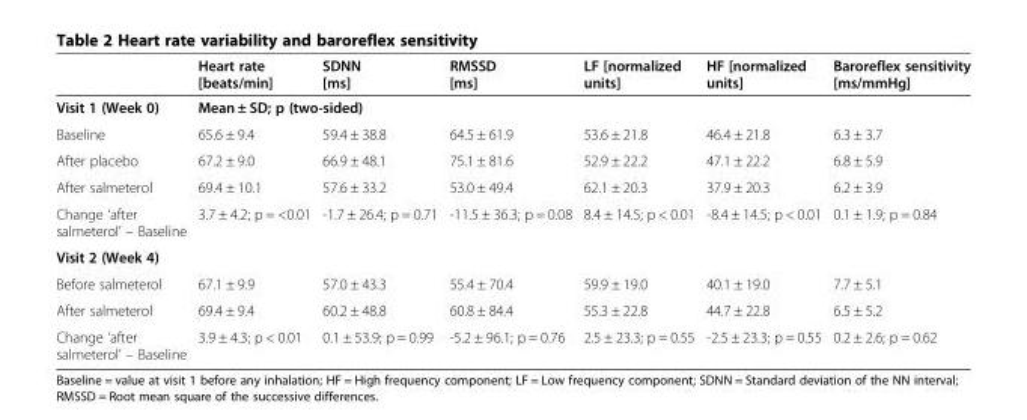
<table><thead><tr><td></td><td>Heart rate [beats/min]</td><td>SDNN [ms]</td><td>RMSSD [ms]</td><td>LF [normalized units]</td><td>HF [normalized units]</td><td>Baroreflex sensitivity [ms/mmHg]</td></tr></thead><tbody><tr><td>Visit 1 (Week 0)</td><td colspan="6">Mean ± SD; p (two-sided)</td></tr><tr><td>Baseline</td><td>65.6 ± 9.4</td><td>59.4 ± 38.8</td><td>64.5 ± 61.9</td><td>53.6 ± 21.8</td><td>46.4 ± 21.8</td><td>6.3 ± 3.7</td></tr><tr><td>After placebo</td><td>67.2 ± 9.0</td><td>66.9 ± 48.1</td><td>75.1 ± 81.6</td><td>52.9 ± 22.2</td><td>47.1 ± 22.2</td><td>6.8 ± 5.9</td></tr><tr><td>After salmeterol</td><td>69.4 ± 10.1</td><td>57.6 ± 33.2</td><td>53.0 ± 49.4</td><td>62.1 ± 20.3</td><td>37.9 ± 20.3</td><td>6.2 ± 3.9</td></tr><tr><td>Change ‘after salmeterol’ – Baseline</td><td>3.7 ± 4.2; p = &lt;0.01</td><td>-1.7 ± 26.4; p = 0.71</td><td>-11.5 ± 36.3; p = 0.08</td><td>8.4 ± 14.5; p &lt; 0.01</td><td>-8.4 ± 14.5; p &lt; 0.01</td><td>0.1 ± 1.9; p = 0.84</td></tr><tr><td colspan="7">Visit 2 (Week 4)</td></tr><tr><td>Before salmeterol</td><td>67.1 ± 9.9</td><td>57.0 ± 43.3</td><td>55.4 ± 70.4</td><td>59.9 ± 19.0</td><td>40.1 ± 19.0</td><td>7.7 ± 5.1</td></tr><tr><td>After salmeterol</td><td>69.4 ± 9.4</td><td>60.2 ± 48.8</td><td>60.8 ± 84.4</td><td>55.3 ± 22.8</td><td>44.7 ± 22.8</td><td>6.5 ± 5.2</td></tr><tr><td>Change ‘after salmeterol’ – Baseline</td><td>3.9 ± 4.3; p &lt; 0.01</td><td>0.1 ± 53.9; p = 0.99</td><td>-5.2 ± 96.1; p = 0.76</td><td>2.5 ± 23.3; p = 0.55</td><td>-2.5 ± 23.3; p = 0.55</td><td>0.2 ± 2.6; p = 0.62</td></tr></tbody></table>